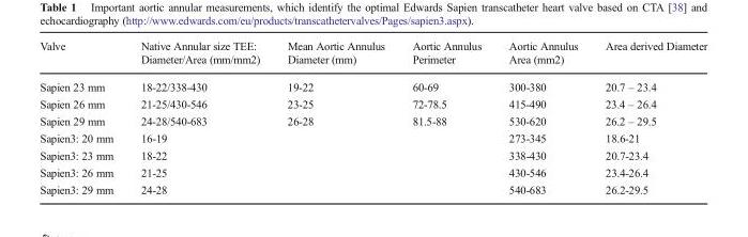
<table><thead><tr><td>Valve</td><td>Native Annular size TEE: Diameter/Area (mm/mm2)</td><td>Mean Aortic Annulus Diameter (mm)</td><td>Aortic Annulus Perimeter</td><td>Aortic Annulus Area (mm2)</td><td>Area derived Diameter</td></tr></thead><tbody><tr><td>Sapien 23 mm</td><td>18-22/338-430</td><td>19-22</td><td>60-69</td><td>300-380</td><td>20.7 – 23.4</td></tr><tr><td>Sapien 26 mm</td><td>21-25/430-546</td><td>23-25</td><td>72-78.5</td><td>415-490</td><td>23.4 – 26.4</td></tr><tr><td>Sapien 29 mm</td><td>24-28/540-683</td><td>26-28</td><td>81.5-88</td><td>530-620</td><td>26.2 – 29.5</td></tr><tr><td>Sapien3: 20 mm</td><td>16-19</td><td></td><td></td><td>273-345</td><td>18.6-21</td></tr><tr><td>Sapien3: 23 mm</td><td>18-22</td><td></td><td></td><td>338-430</td><td>20.7-23.4</td></tr><tr><td>Sapien3: 26 mm</td><td>21-25</td><td></td><td></td><td>430-546</td><td>23.4-26.4</td></tr><tr><td>Sapien3: 29 mm</td><td>24-28</td><td></td><td></td><td>540-683</td><td>26.2-29.5</td></tr></tbody></table>